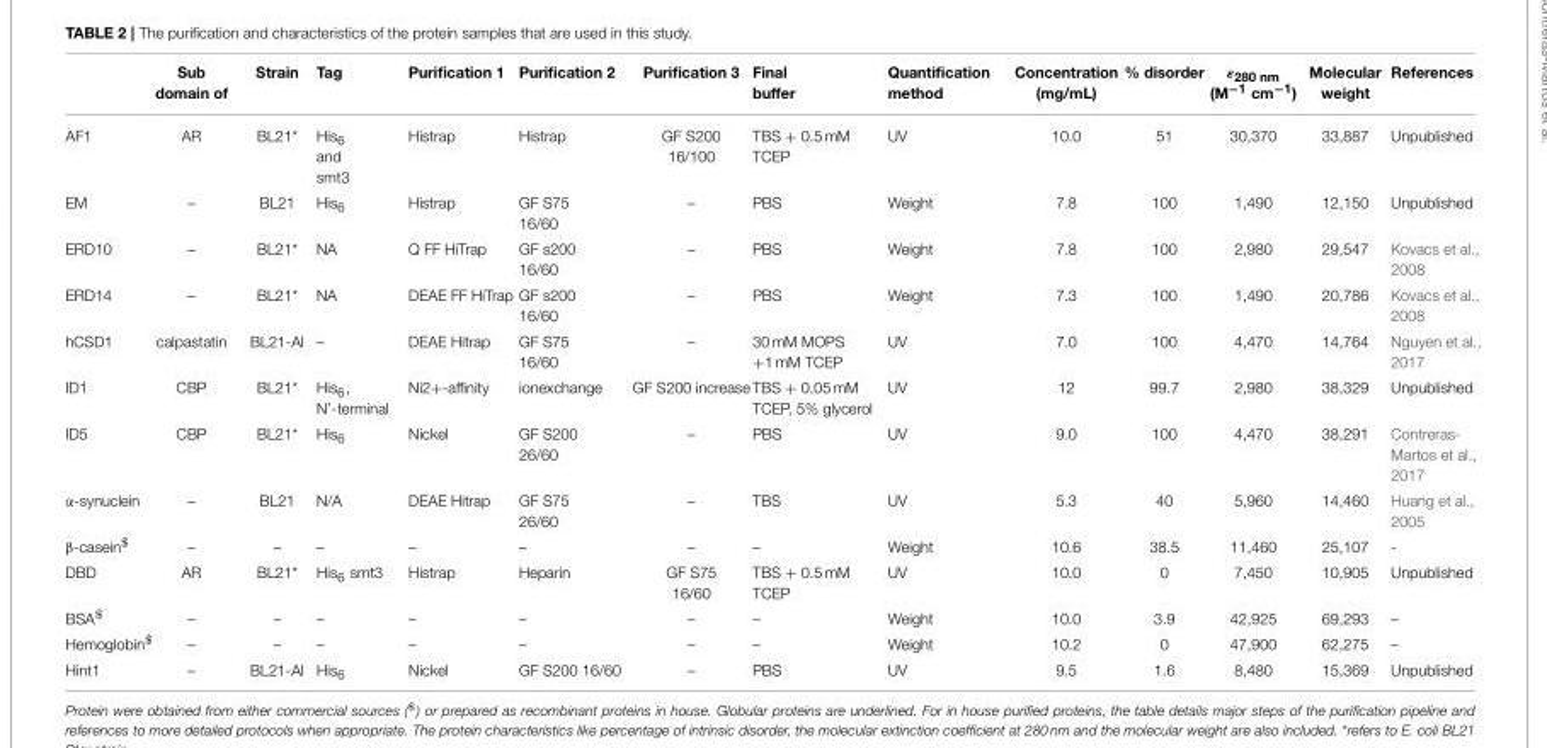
<table><thead><tr><td></td><td>Sub domain of</td><td>Strain</td><td>Tag</td><td>Purification 1</td><td>Purification 2</td><td>Purification 3</td><td>Final buffer</td><td>Quantification method</td><td>Concentration (mg/mL)</td><td>% disorder</td><td>ε<sub>280 nm</sub> (M<sup>−1</sup> cm<sup>−1</sup>)</td><td>Molecular weight</td><td>References</td></tr></thead><tbody><tr><td>AF1</td><td>AR</td><td>BL21*</td><td>His<sub>6</sub> and smt3</td><td>Histrap</td><td>Histrap</td><td>GF S200 16/100</td><td>TBS + 0.5 mM TCEP</td><td>UV</td><td>10.0</td><td>51</td><td>30,370</td><td>33,887</td><td>Unpublished</td></tr><tr><td>EM</td><td>–</td><td>BL21</td><td>His<sub>6</sub></td><td>Histrap</td><td>GF S75 16/60</td><td>–</td><td>PBS</td><td>Weight</td><td>7.8</td><td>100</td><td>1,490</td><td>12,150</td><td>Unpublished</td></tr><tr><td>ERD10</td><td>–</td><td>BL21*</td><td>NA</td><td>Q FF HiTrap</td><td>GF s200 16/60</td><td>–</td><td>PBS</td><td>Weight</td><td>7.8</td><td>100</td><td>2,980</td><td>29,547</td><td>Kovacs et al., 2008</td></tr><tr><td>ERD14</td><td>–</td><td>BL21*</td><td>NA</td><td>DEAE FF HiTrap</td><td>GF s200 16/60</td><td>–</td><td>PBS</td><td>Weight</td><td>7.3</td><td>100</td><td>1,490</td><td>20,786</td><td>Kovacs et al., 2008</td></tr><tr><td>hCSD1</td><td>calpastatin</td><td>BL21-AI</td><td>–</td><td>DEAE Hitrap</td><td>GF S75 16/60</td><td>–</td><td>30 mM MOPS +1 mM TCEP</td><td>UV</td><td>7.0</td><td>100</td><td>4,470</td><td>14,764</td><td>Nguyen et al., 2017</td></tr><tr><td>ID1</td><td>CBP</td><td>BL21*</td><td>His<sub>6</sub>, N’-terminal</td><td>Ni2+-affinity</td><td>ionexchange</td><td>GF S200 increase</td><td>TBS + 0.05 mM TCEP, 5% glycerol</td><td>UV</td><td>12</td><td>99.7</td><td>2,980</td><td>38,329</td><td>Unpublished</td></tr><tr><td>ID5</td><td>CBP</td><td>BL21*</td><td>His<sub>6</sub></td><td>Nickel</td><td>GF S200 26/60</td><td>–</td><td>PBS</td><td>UV</td><td>9.0</td><td>100</td><td>4,470</td><td>38,291</td><td>Contreras- Martos et al., 2017</td></tr><tr><td>α-synuclein</td><td>–</td><td>BL21</td><td>N/A</td><td>DEAE Hitrap</td><td>GF S75 26/60</td><td>–</td><td>TBS</td><td>UV</td><td>5.3</td><td>40</td><td>5,960</td><td>14,460</td><td>Huang et al., 2005</td></tr><tr><td>β-casein<sup>$</sup></td><td>–</td><td>–</td><td>–</td><td>–</td><td>–</td><td>–</td><td>–</td><td>Weight</td><td>10.6</td><td>38.5</td><td>11,460</td><td>25,107</td><td>-</td></tr><tr><td>DBD</td><td>AR</td><td>BL21*</td><td>His<sub>6</sub> smt3</td><td>Histrap</td><td>Heparin</td><td>GF S75 16/60</td><td>TBS + 0.5 mM TCEP</td><td>UV</td><td>10.0</td><td>0</td><td>7,450</td><td>10,905</td><td>Unpublished</td></tr><tr><td>BSA<sup>$</sup></td><td>–</td><td>–</td><td>–</td><td>–</td><td>–</td><td>–</td><td>–</td><td>Weight</td><td>10.0</td><td>3.9</td><td>42,925</td><td>69,293</td><td>–</td></tr><tr><td>Hemoglobin<sup>$</sup></td><td>–</td><td>–</td><td>–</td><td>–</td><td>–</td><td>–</td><td>–</td><td>Weight</td><td>10.2</td><td>0</td><td>47,900</td><td>62,275</td><td>–</td></tr><tr><td>Hint1</td><td>–</td><td>BL21-AI</td><td>His<sub>6</sub></td><td>Nickel</td><td>GF S200 16/60</td><td>–</td><td>PBS</td><td>UV</td><td>9.5</td><td>1.6</td><td>8,480</td><td>15,369</td><td>Unpublished</td></tr></tbody></table>